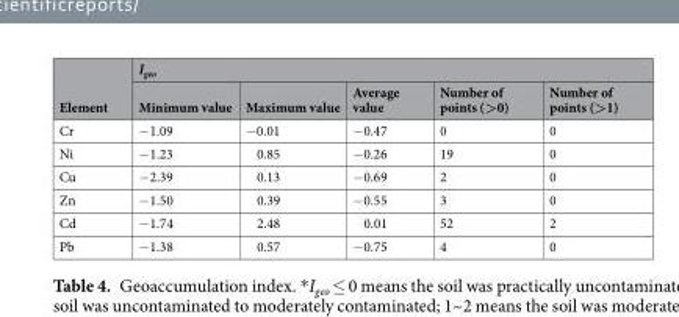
<table><thead><tr><td rowspan="2">Element</td><td colspan="5">I<sub>geo</sub></td></tr><tr><td>Minimum value</td><td>Maximum value</td><td>Average value</td><td>Number of points (&gt;0)</td><td>Number of points (&gt;1)</td></tr></thead><tbody><tr><td>Cr</td><td>−1.09</td><td>−0.01</td><td>−0.47</td><td>0</td><td>0</td></tr><tr><td>Ni</td><td>−1.23</td><td>0.85</td><td>−0.26</td><td>19</td><td>0</td></tr><tr><td>Cu</td><td>−2.39</td><td>0.13</td><td>−0.69</td><td>2</td><td>0</td></tr><tr><td>Zn</td><td>−1.50</td><td>0.39</td><td>−0.55</td><td>3</td><td>0</td></tr><tr><td>Cd</td><td>−1.74</td><td>2.48</td><td>0.01</td><td>52</td><td>2</td></tr><tr><td>Pb</td><td>−1.38</td><td>0.57</td><td>−0.75</td><td>4</td><td>0</td></tr></tbody></table>